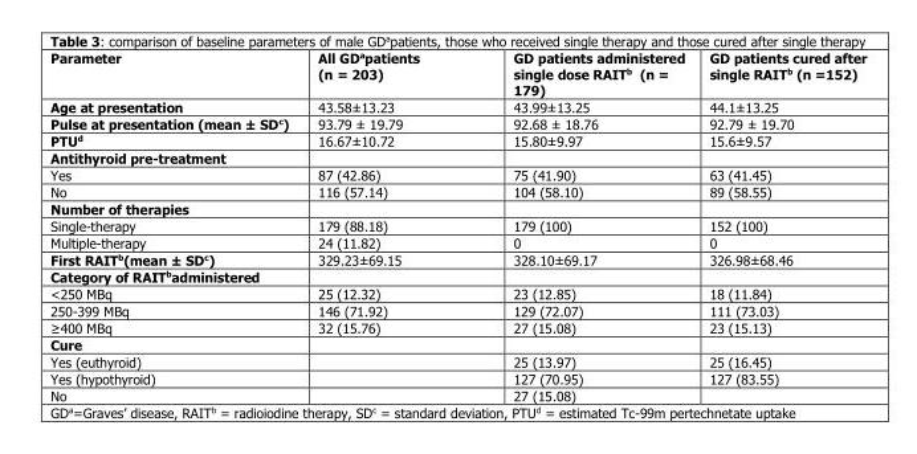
<table><thead><tr><td>Parameter</td><td>All GD<sup>a</sup>patients (n = 203)</td><td>GD patients administered single dose RAIT<sup>b</sup> (n = 179)</td><td>GD patients cured after single RAIT<sup>b</sup> (n =152)</td></tr></thead><tbody><tr><td>Age at presentation</td><td>43.58±13.23</td><td>43.99±13.25</td><td>44.1±13.25</td></tr><tr><td>Pulse at presentation (mean ± SD<sup>c</sup>)</td><td>93.79 ± 19.79</td><td>92.68 ± 18.76</td><td>92.79 ± 19.70</td></tr><tr><td>PTU<sup>d</sup></td><td>16.67±10.72</td><td>15.80±9.97</td><td>15.6±9.57</td></tr><tr><td colspan="4">Antithyroid pre-treatment</td></tr><tr><td>Yes</td><td>87 (42.86)</td><td>75 (41.90)</td><td>63 (41.45)</td></tr><tr><td>No</td><td>116 (57.14)</td><td>104 (58.10)</td><td>89 (58.55)</td></tr><tr><td colspan="4">Number of therapies</td></tr><tr><td>Single-therapy</td><td>179 (88.18)</td><td>179 (100)</td><td>152 (100)</td></tr><tr><td>Multiple-therapy</td><td>24 (11.82)</td><td>0</td><td>0</td></tr><tr><td>First RAIT<sup>b</sup>(mean ± SD<sup>c</sup>)</td><td>329.23±69.15</td><td>328.10±69.17</td><td>326.98±68.46</td></tr><tr><td colspan="4">Category of RAIT<sup>b</sup>administered</td></tr><tr><td>&lt;250 MBq</td><td>25 (12.32)</td><td>23 (12.85)</td><td>18 (11.84)</td></tr><tr><td>250-399 MBq</td><td>146 (71.92)</td><td>129 (72.07)</td><td>111 (73.03)</td></tr><tr><td>≥400 MBq</td><td>32 (15.76)</td><td>27 (15.08)</td><td>23 (15.13)</td></tr><tr><td colspan="4">Cure</td></tr><tr><td>Yes (euthyroid)</td><td></td><td>25 (13.97)</td><td>25 (16.45)</td></tr><tr><td>Yes (hypothyroid)</td><td></td><td>127 (70.95)</td><td>127 (83.55)</td></tr><tr><td>No</td><td></td><td>27 (15.08)</td><td></td></tr></tbody></table>